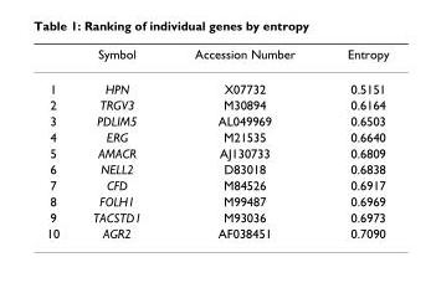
<table><thead><tr><td></td><td>Symbol</td><td>Accession Number</td><td>Entropy</td></tr></thead><tbody><tr><td>1</td><td>HPN</td><td>X07732</td><td>0.5151</td></tr><tr><td>2</td><td>TRGV3</td><td>M30894</td><td>0.6164</td></tr><tr><td>3</td><td>PDLIM5</td><td>AL049969</td><td>0.6503</td></tr><tr><td>4</td><td>ERG</td><td>M21535</td><td>0.6640</td></tr><tr><td>5</td><td>AMACR</td><td>AJ130733</td><td>0.6809</td></tr><tr><td>6</td><td>NELL2</td><td>D83018</td><td>0.6838</td></tr><tr><td>7</td><td>CFD</td><td>M84526</td><td>0.6917</td></tr><tr><td>8</td><td>FOLH1</td><td>M99487</td><td>0.6969</td></tr><tr><td>9</td><td>TACSTD1</td><td>M93036</td><td>0.6973</td></tr><tr><td>10</td><td>AGR2</td><td>AF038451</td><td>0.7090</td></tr></tbody></table>